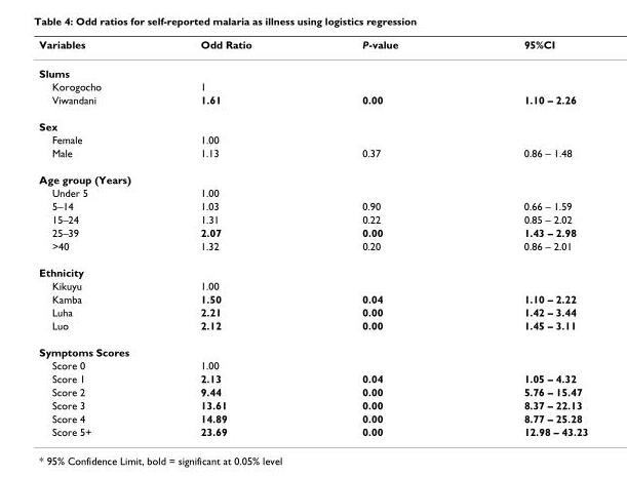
<table><thead><tr><td>Variables</td><td>Odd Ratio</td><td>P-value</td><td>95%CI</td></tr></thead><tbody><tr><td colspan="4">Slums</td></tr><tr><td>Korogocho</td><td>1</td><td></td><td></td></tr><tr><td>Viwandani</td><td>1.61</td><td>0.00</td><td>1.10 – 2.26</td></tr><tr><td colspan="4">Sex</td></tr><tr><td>Female</td><td>1.00</td><td></td><td></td></tr><tr><td>Male</td><td>1.13</td><td>0.37</td><td>0.86 – 1.48</td></tr><tr><td colspan="4">Age group (Years)</td></tr><tr><td>Under 5</td><td>1.00</td><td></td><td></td></tr><tr><td>5–14</td><td>1.03</td><td>0.90</td><td>0.66 – 1.59</td></tr><tr><td>15–24</td><td>1.31</td><td>0.22</td><td>0.85 – 2.02</td></tr><tr><td>25–39</td><td>2.07</td><td>0.00</td><td>1.43 – 2.98</td></tr><tr><td>&gt;40</td><td>1.32</td><td>0.20</td><td>0.86 – 2.01</td></tr><tr><td colspan="4">Ethnicity</td></tr><tr><td>Kikuyu</td><td>1.00</td><td></td><td></td></tr><tr><td>Kamba</td><td>1.50</td><td>0.04</td><td>1.10 – 2.22</td></tr><tr><td>Luha</td><td>2.21</td><td>0.00</td><td>1.42 – 3.44</td></tr><tr><td>Luo</td><td>2.12</td><td>0.00</td><td>1.45 – 3.11</td></tr><tr><td colspan="4">Symptoms Scores</td></tr><tr><td>Score 0</td><td>1.00</td><td></td><td></td></tr><tr><td>Score 1</td><td>2.13</td><td>0.04</td><td>1.05 – 4.32</td></tr><tr><td>Score 2</td><td>9.44</td><td>0.00</td><td>5.76 – 15.47</td></tr><tr><td>Score 3</td><td>13.61</td><td>0.00</td><td>8.37 – 22.13</td></tr><tr><td>Score 4</td><td>14.89</td><td>0.00</td><td>8.77 – 25.28</td></tr><tr><td>Score 5+</td><td>23.69</td><td>0.00</td><td>12.98 – 43.23</td></tr></tbody></table>